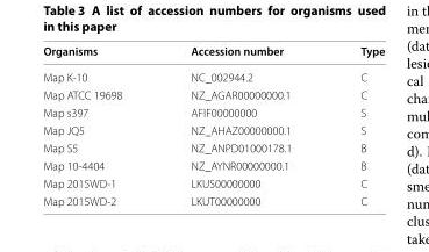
<table><thead><tr><td>Organisms</td><td>Accession number</td><td>Type</td></tr></thead><tbody><tr><td>Map K-10</td><td>NC_002944.2</td><td>C</td></tr><tr><td>Map ATCC 19698</td><td>NZ_AGAR00000000.1</td><td>C</td></tr><tr><td>Map s397</td><td>AFIF00000000</td><td>S</td></tr><tr><td>Map JQ5</td><td>NZ_AHAZ00000000.1</td><td>S</td></tr><tr><td>Map S5</td><td>NZ_ANPD01000178.1</td><td>B</td></tr><tr><td>Map 10-4404</td><td>NZ_AYNR00000000.1</td><td>B</td></tr><tr><td>Map 2015WD-1</td><td>LKUS00000000</td><td>C</td></tr><tr><td>Map 2015WD-2</td><td>LKUT00000000</td><td>C</td></tr></tbody></table>